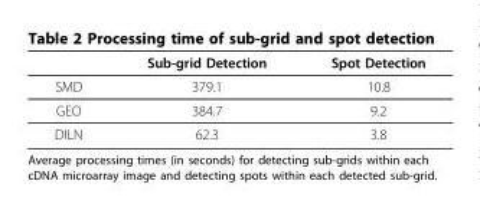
<table><thead><tr><td></td><td>Sub-grid Detection</td><td>Spot Detection</td></tr></thead><tbody><tr><td>SMD</td><td>379.1</td><td>10.8</td></tr><tr><td>GEO</td><td>384.7</td><td>9.2</td></tr><tr><td>DILN</td><td>62.3</td><td>3.8</td></tr></tbody></table>